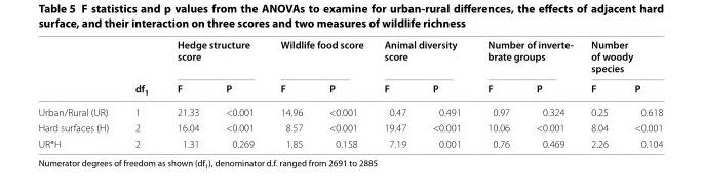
<table><thead><tr><td rowspan="2"></td><td rowspan="2">df<sub>1</sub></td><td colspan="2">Hedge structure score</td><td colspan="2">Wildlife food score</td><td colspan="2">Animal diversity score</td><td colspan="2">Number of inverte- brate groups</td><td colspan="2">Number of woody species</td></tr><tr><td>F</td><td>P</td><td>F</td><td>P</td><td>F</td><td>P</td><td>F</td><td>P</td><td>F</td><td>P</td></tr></thead><tbody><tr><td>Urban/Rural (UR)</td><td>1</td><td>21.33</td><td>&lt;0.001</td><td>14.96</td><td>&lt;0.001</td><td>0.47</td><td>0.491</td><td>0.97</td><td>0.324</td><td>0.25</td><td>0.618</td></tr><tr><td>Hard surfaces (H)</td><td>2</td><td>16.04</td><td>&lt;0.001</td><td>8.57</td><td>&lt;0.001</td><td>19.47</td><td>&lt;0.001</td><td>10.06</td><td>&lt;0.001</td><td>8.04</td><td>&lt;0.001</td></tr><tr><td>UR*H</td><td>2</td><td>1.31</td><td>0.269</td><td>1.85</td><td>0.158</td><td>7.19</td><td>0.001</td><td>0.76</td><td>0.469</td><td>2.26</td><td>0.104</td></tr></tbody></table>